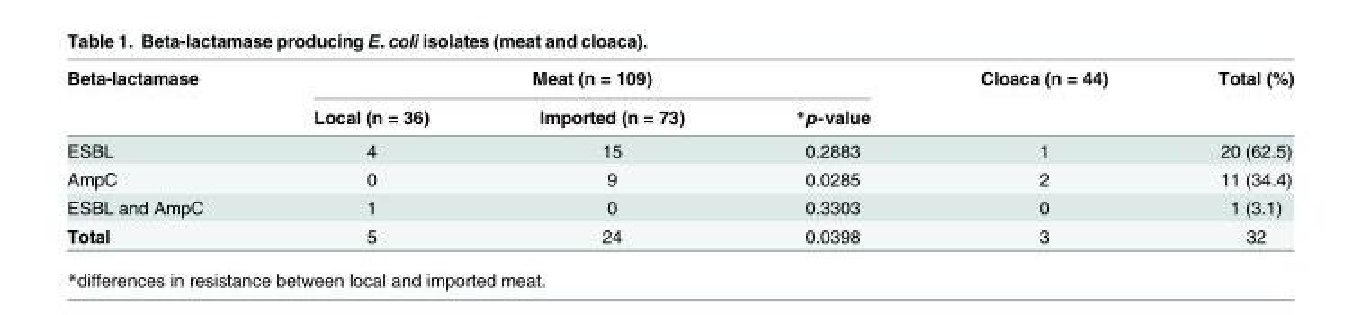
<table><thead><tr><td rowspan="2">Beta-lactamase</td><td colspan="3">Meat (n = 109)</td><td rowspan="2">Cloaca (n = 44)</td><td rowspan="2">Total (%)</td></tr><tr><td>Local (n = 36)</td><td>Imported (n = 73)</td><td>*p-value</td></tr></thead><tbody><tr><td>ESBL</td><td>4</td><td>15</td><td>0.2883</td><td>1</td><td>20 (62.5)</td></tr><tr><td>AmpC</td><td>0</td><td>9</td><td>0.0285</td><td>2</td><td>11 (34.4)</td></tr><tr><td>ESBL and AmpC</td><td>1</td><td>0</td><td>0.3303</td><td>0</td><td>1 (3.1)</td></tr><tr><td>Total</td><td>5</td><td>24</td><td>0.0398</td><td>3</td><td>32</td></tr></tbody></table>